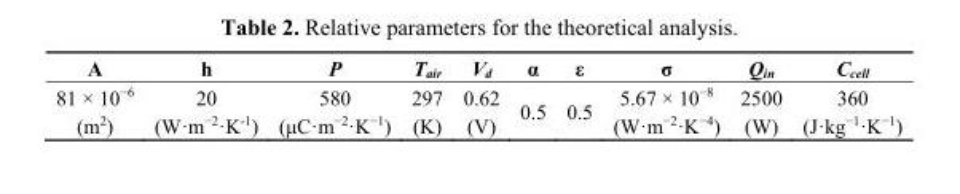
<table><thead><tr><td>A</td><td>h</td><td>P</td><td>T<sub>air</sub></td><td>V<sub>d</sub></td><td>α</td><td>ε</td><td>σ</td><td>Q<sub>in</sub></td><td>C<sub>cell</sub></td></tr></thead><tbody><tr><td>81 × 10<sup>−6</sup> (m<sup>2</sup>)</td><td>20 (W·m<sup>−2</sup>·K<sup>-1</sup>)</td><td>580 (μC·m<sup>−2</sup>·K<sup>−1</sup>)</td><td>297 (K)</td><td>0.62 (V)</td><td>0.5</td><td>0.5</td><td>5.67 × 10<sup>−8</sup> (W·m<sup>−2</sup>·K<sup>−4</sup>)</td><td>2500 (W)</td><td>360 (J·kg<sup>−1</sup>·K<sup>−1</sup>)</td></tr></tbody></table>